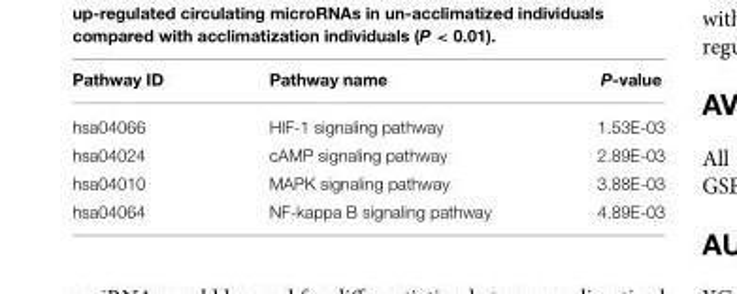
<table><thead><tr><td>Pathway ID</td><td>Pathway name</td><td>P-value</td></tr></thead><tbody><tr><td>hsa04066</td><td>HIF-1 signaling pathway</td><td>1.53E-03</td></tr><tr><td>hsa04024</td><td>cAMP signaling pathway</td><td>2.89E-03</td></tr><tr><td>hsa04010</td><td>MAPK signaling pathway</td><td>3.88E-03</td></tr><tr><td>hsa04064</td><td>NF-kappa B signaling pathway</td><td>4.89E-03</td></tr></tbody></table>